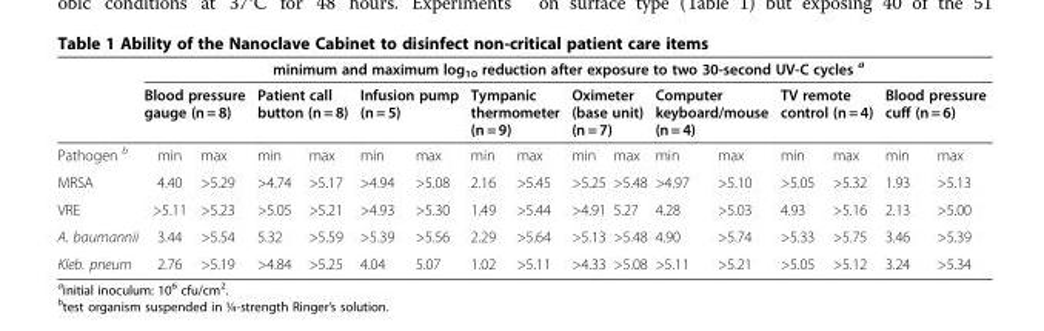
<table><thead><tr><td rowspan="3">Pathogen <sup>b</sup></td><td colspan="16">minimum and maximum log<sub>10</sub> reduction after exposure to two 30-second UV-C cycles <sup>a</sup></td></tr><tr><td colspan="2">Blood pressure gauge (n = 8)</td><td colspan="2">Patient call button (n = 8)</td><td colspan="2">Infusion pump (n = 5)</td><td colspan="2">Tympanic thermometer (n = 9)</td><td colspan="2">Oximeter (base unit) (n = 7)</td><td colspan="2">Computer keyboard/mouse (n = 4)</td><td colspan="2">TV remote control (n = 4)</td><td colspan="2">Blood pressure cuff (n = 6)</td></tr><tr><td>min</td><td>max</td><td>min</td><td>max</td><td>min</td><td>max</td><td>min</td><td>max</td><td>min</td><td>max</td><td>min</td><td>max</td><td>min</td><td>max</td><td>min</td><td>max</td></tr></thead><tbody><tr><td>MRSA</td><td>4.40</td><td>&gt;5.29</td><td>&gt;4.74</td><td>&gt;5.17</td><td>&gt;4.94</td><td>&gt;5.08</td><td>2.16</td><td>&gt;5.45</td><td>&gt;5.25</td><td>&gt;5.48</td><td>&gt;4.97</td><td>&gt;5.10</td><td>&gt;5.05</td><td>&gt;5.32</td><td>1.93</td><td>&gt;5.13</td></tr><tr><td>VRE</td><td>&gt;5.11</td><td>&gt;5.23</td><td>&gt;5.05</td><td>&gt;5.21</td><td>&gt;4.93</td><td>&gt;5.30</td><td>1.49</td><td>&gt;5.44</td><td>&gt;4.91</td><td>5.27</td><td>4.28</td><td>&gt;5.03</td><td>4.93</td><td>&gt;5.16</td><td>2.13</td><td>&gt;5.00</td></tr><tr><td>A. baumannii</td><td>3.44</td><td>&gt;5.54</td><td>5.32</td><td>&gt;5.59</td><td>&gt;5.39</td><td>&gt;5.56</td><td>2.29</td><td>&gt;5.64</td><td>&gt;5.13</td><td>&gt;5.48</td><td>4.90</td><td>&gt;5.74</td><td>&gt;5.33</td><td>&gt;5.75</td><td>3.46</td><td>&gt;5.39</td></tr><tr><td>Kleb. pneum</td><td>2.76</td><td>&gt;5.19</td><td>&gt;4.84</td><td>&gt;5.25</td><td>4.04</td><td>5.07</td><td>1.02</td><td>&gt;5.11</td><td>&gt;4.33</td><td>&gt;5.08</td><td>&gt;5.11</td><td>&gt;5.21</td><td>&gt;5.05</td><td>&gt;5.12</td><td>3.24</td><td>&gt;5.34</td></tr></tbody></table>